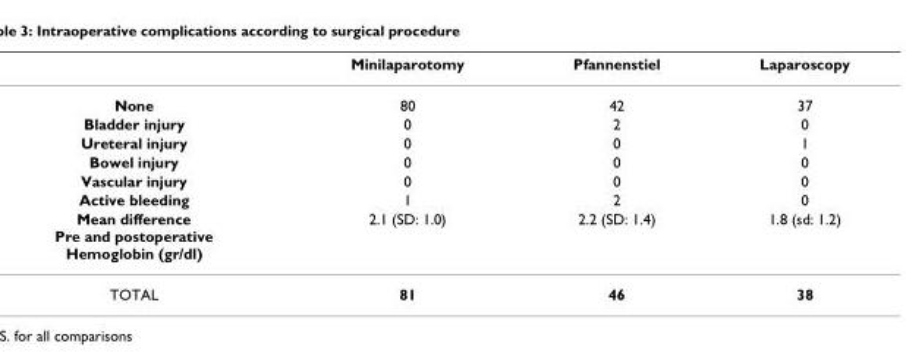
<table><thead><tr><td></td><td>Minilaparotomy</td><td>Pfannenstiel</td><td>Laparoscopy</td></tr></thead><tbody><tr><td>None</td><td>80</td><td>42</td><td>37</td></tr><tr><td>Bladder injury</td><td>0</td><td>2</td><td>0</td></tr><tr><td>Ureteral injury</td><td>0</td><td>0</td><td>1</td></tr><tr><td>Bowel injury</td><td>0</td><td>0</td><td>0</td></tr><tr><td>Vascular injury</td><td>0</td><td>0</td><td>0</td></tr><tr><td>Active bleeding</td><td>1</td><td>2</td><td>0</td></tr><tr><td>Mean difference Pre and postoperative Hemoglobin (gr/dl)</td><td>2.1 (SD: 1.0)</td><td>2.2 (SD: 1.4)</td><td>1.8 (sd: 1.2)</td></tr><tr><td>TOTAL</td><td>81</td><td>46</td><td>38</td></tr></tbody></table>